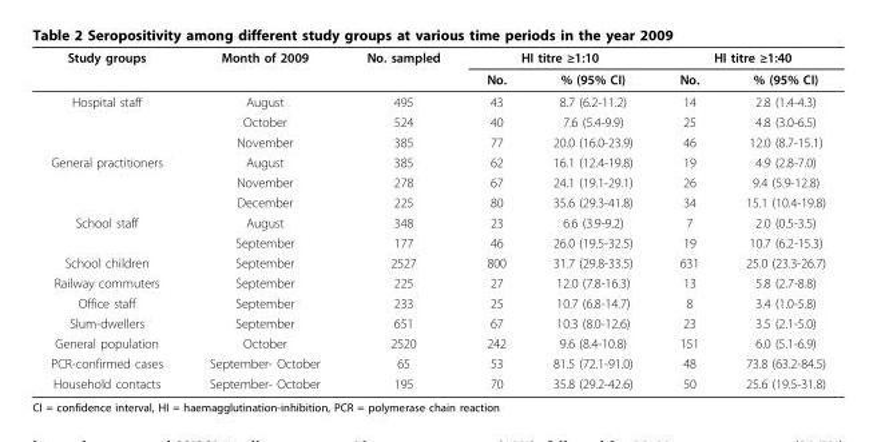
<table><thead><tr><td rowspan="2">Study groups</td><td rowspan="2">Month of 2009</td><td rowspan="2">No. sampled</td><td colspan="2">HI titre ≥1:10</td><td colspan="2">HI titre ≥1:40</td></tr><tr><td>No.</td><td>% (95% CI)</td><td>No.</td><td>% (95% CI)</td></tr></thead><tbody><tr><td rowspan="3">Hospital staff</td><td>August</td><td>495</td><td>43</td><td>8.7 (6.2-11.2)</td><td>14</td><td>2.8 (1.4-4.3)</td></tr><tr><td>October</td><td>524</td><td>40</td><td>7.6 (5.4-9.9)</td><td>25</td><td>4.8 (3.0-6.5)</td></tr><tr><td>November</td><td>385</td><td>77</td><td>20.0 (16.0-23.9)</td><td>46</td><td>12.0 (8.7-15.1)</td></tr><tr><td rowspan="3">General practitioners</td><td>August</td><td>385</td><td>62</td><td>16.1 (12.4-19.8)</td><td>19</td><td>4.9 (2.8-7.0)</td></tr><tr><td>November</td><td>278</td><td>67</td><td>24.1 (19.1-29.1)</td><td>26</td><td>9.4 (5.9-12.8)</td></tr><tr><td>December</td><td>225</td><td>80</td><td>35.6 (29.3-41.8)</td><td>34</td><td>15.1 (10.4-19.8)</td></tr><tr><td rowspan="2">School staff</td><td>August</td><td>348</td><td>23</td><td>6.6 (3.9-9.2)</td><td>7</td><td>2.0 (0.5-3.5)</td></tr><tr><td>September</td><td>177</td><td>46</td><td>26.0 (19.5-32.5)</td><td>19</td><td>10.7 (6.2-15.3)</td></tr><tr><td>School children</td><td>September</td><td>2527</td><td>800</td><td>31.7 (29.8-33.5)</td><td>631</td><td>25.0 (23.3-26.7)</td></tr><tr><td>Railway commuters</td><td>September</td><td>225</td><td>27</td><td>12.0 (7.8-16.3)</td><td>13</td><td>5.8 (2.7-8.8)</td></tr><tr><td>Office staff</td><td>September</td><td>233</td><td>25</td><td>10.7 (6.8-14.7)</td><td>8</td><td>3.4 (1.0-5.8)</td></tr><tr><td>Slum-dwellers</td><td>September</td><td>651</td><td>67</td><td>10.3 (8.0-12.6)</td><td>23</td><td>3.5 (2.1-5.0)</td></tr><tr><td>General population</td><td>October</td><td>2520</td><td>242</td><td>9.6 (8.4-10.8)</td><td>151</td><td>6.0 (5.1-6.9)</td></tr><tr><td>PCR-confirmed cases</td><td>September- October</td><td>65</td><td>53</td><td>81.5 (72.1-91.0)</td><td>48</td><td>73.8 (63.2-84.5)</td></tr><tr><td>Household contacts</td><td>September- October</td><td>195</td><td>70</td><td>35.8 (29.2-42.6)</td><td>50</td><td>25.6 (19.5-31.8)</td></tr></tbody></table>